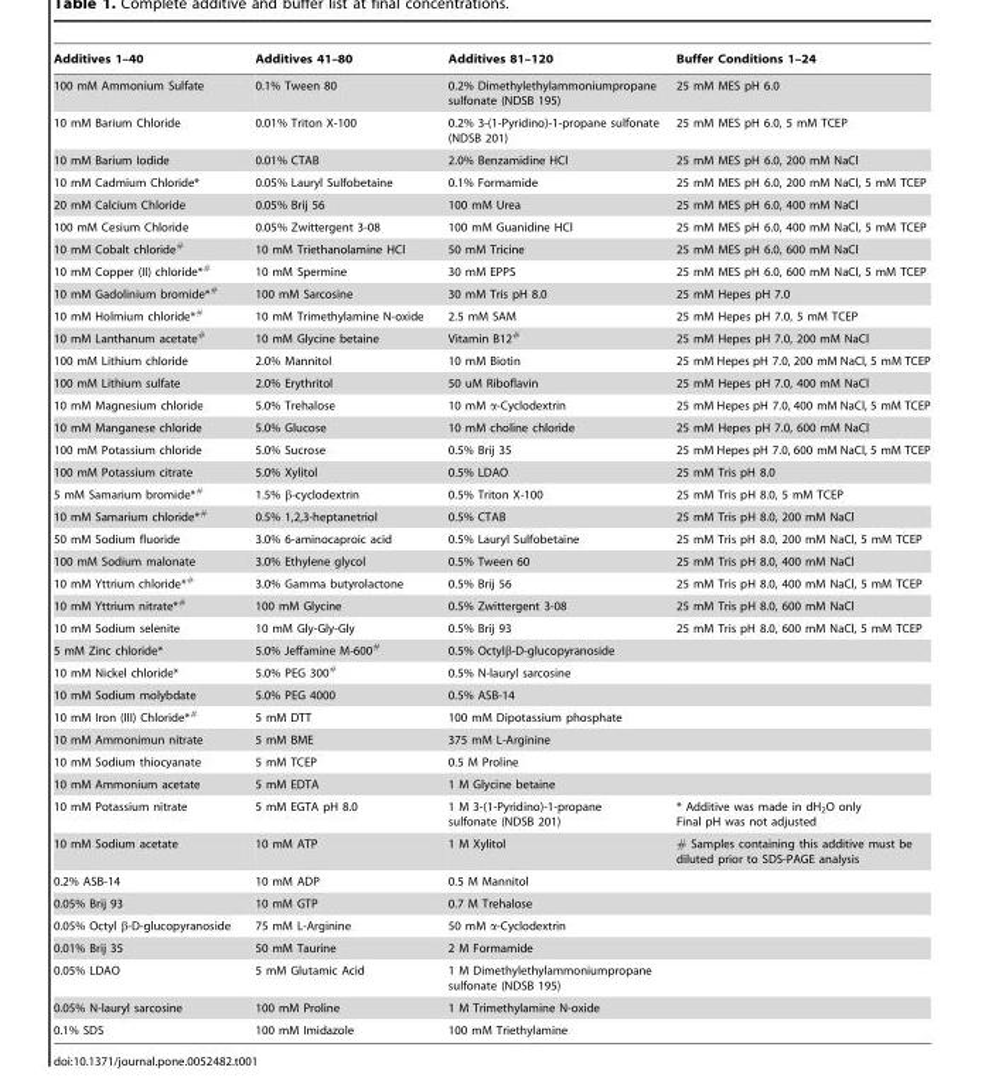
<table><thead><tr><td>Additives 1–40</td><td>Additives 41–80</td><td>Additives 81–120</td><td>Buffer Conditions 1–24</td></tr></thead><tbody><tr><td>100 mM Ammonium Sulfate</td><td>0.1% Tween 80</td><td>0.2% Dimethylethylammoniumpropane sulfonate (NDSB 195)</td><td>25 mM MES pH 6.0</td></tr><tr><td>10 mM Barium Chloride</td><td>0.01% Triton X-100</td><td>0.2% 3-(1-Pyridino)-1-propane sulfonate (NDSB 201)</td><td>25 mM MES pH 6.0, 5 mM TCEP</td></tr><tr><td>10 mM Barium Iodide</td><td>0.01% CTAB</td><td>2.0% Benzamidine HCl</td><td>25 mM MES pH 6.0, 200 mM NaCl</td></tr><tr><td>10 mM Cadmium Chloride*</td><td>0.05% Lauryl Sulfobetaine</td><td>0.1% Formamide</td><td>25 mM MES pH 6.0, 200 mM NaCl, 5 mM TCEP</td></tr><tr><td>20 mM Calcium Chloride</td><td>0.05% Brij 56</td><td>100 mM Urea</td><td>25 mM MES pH 6.0, 400 mM NaCl</td></tr><tr><td>100 mM Cesium Chloride</td><td>0.05% Zwittergent 3-08</td><td>100 mM Guanidine HCl</td><td>25 mM MES pH 6.0, 400 mM NaCl, 5 mM TCEP</td></tr><tr><td>10 mM Cobalt chloride<sup>#</sup></td><td>10 mM Triethanolamine HCl</td><td>50 mM Tricine</td><td>25 mM MES pH 6.0, 600 mM NaCl</td></tr><tr><td>10 mM Copper (II) chloride*<sup>#</sup></td><td>10 mM Spermine</td><td>30 mM EPPS</td><td>25 mM MES pH 6.0, 600 mM NaCl, 5 mM TCEP</td></tr><tr><td>10 mM Gadolinium bromide*<sup>#</sup></td><td>100 mM Sarcosine</td><td>30 mM Tris pH 8.0</td><td>25 mM Hepes pH 7.0</td></tr><tr><td>10 mM Holmium chloride*<sup>#</sup></td><td>10 mM Trimethylamine N-oxide</td><td>2.5 mM SAM</td><td>25 mM Hepes pH 7.0, 5 mM TCEP</td></tr><tr><td>10 mM Lanthanum acetate<sup>#</sup></td><td>10 mM Glycine betaine</td><td>Vitamin B12<sup>#</sup></td><td>25 mM Hepes pH 7.0, 200 mM NaCl</td></tr><tr><td>100 mM Lithium chloride</td><td>2.0% Mannitol</td><td>10 mM Biotin</td><td>25 mM Hepes pH 7.0, 200 mM NaCl, 5 mM TCEP</td></tr><tr><td>100 mM Lithium sulfate</td><td>2.0% Erythritol</td><td>50 uM Riboflavin</td><td>25 mM Hepes pH 7.0, 400 mM NaCl</td></tr><tr><td>10 mM Magnesium chloride</td><td>5.0% Trehalose</td><td>10 mM α-Cyclodextrin</td><td>25 mM Hepes pH 7.0, 400 mM NaCl, 5 mM TCEP</td></tr><tr><td>10 mM Manganese chloride</td><td>5.0% Glucose</td><td>10 mM choline chloride</td><td>25 mM Hepes pH 7.0, 600 mM NaCl</td></tr><tr><td>100 mM Potassium chloride</td><td>5.0% Sucrose</td><td>0.5% Brij 35</td><td>25 mM Hepes pH 7.0, 600 mM NaCl, 5 mM TCEP</td></tr><tr><td>100 mM Potassium citrate</td><td>5.0% Xylitol</td><td>0.5% LDAO</td><td>25 mM Tris pH 8.0</td></tr><tr><td>5 mM Samarium bromide*<sup>#</sup></td><td>1.5% β-cyclodextrin</td><td>0.5% Triton X-100</td><td>25 mM Tris pH 8.0, 5 mM TCEP</td></tr><tr><td>10 mM Samarium chloride*<sup>#</sup></td><td>0.5% 1,2,3-heptanetriol</td><td>0.5% CTAB</td><td>25 mM Tris pH 8.0, 200 mM NaCl</td></tr><tr><td>50 mM Sodium fluoride</td><td>3.0% 6-aminocaproic acid</td><td>0.5% Lauryl Sulfobetaine</td><td>25 mM Tris pH 8.0, 200 mM NaCl, 5 mM TCEP</td></tr><tr><td>100 mM Sodium malonate</td><td>3.0% Ethylene glycol</td><td>0.5% Tween 60</td><td>25 mM Tris pH 8.0, 400 mM NaCl</td></tr><tr><td>10 mM Yttrium chloride*<sup>#</sup></td><td>3.0% Gamma butyrolactone</td><td>0.5% Brij 56</td><td>25 mM Tris pH 8.0, 400 mM NaCl, 5 mM TCEP</td></tr><tr><td>10 mM Yttrium nitrate*<sup>#</sup></td><td>100 mM Glycine</td><td>0.5% Zwittergent 3-08</td><td>25 mM Tris pH 8.0, 600 mM NaCl</td></tr><tr><td>10 mM Sodium selenite</td><td>10 mM Gly-Gly-Gly</td><td>0.5% Brij 93</td><td>25 mM Tris pH 8.0, 600 mM NaCl, 5 mM TCEP</td></tr><tr><td>5 mM Zinc chloride*</td><td>5.0% Jeffamine M-600<sup>#</sup></td><td>0.5% Octylβ-D-glucopyranoside</td><td></td></tr><tr><td>10 mM Nickel chloride*</td><td>5.0% PEG 300<sup>#</sup></td><td>0.5% N-lauryl sarcosine</td><td></td></tr><tr><td>10 mM Sodium molybdate</td><td>5.0% PEG 4000</td><td>0.5% ASB-14</td><td></td></tr><tr><td>10 mM Iron (III) Chloride*<sup>#</sup></td><td>5 mM DTT</td><td>100 mM Dipotassium phosphate</td><td></td></tr><tr><td>10 mM Ammonimun nitrate</td><td>5 mM BME</td><td>375 mM L-Arginine</td><td></td></tr><tr><td>10 mM Sodium thiocyanate</td><td>5 mM TCEP</td><td>0.5 M Proline</td><td></td></tr><tr><td>10 mM Ammonium acetate</td><td>5 mM EDTA</td><td>1 M Glycine betaine</td><td></td></tr><tr><td>10 mM Potassium nitrate</td><td>5 mM EGTA pH 8.0</td><td>1 M 3-(1-Pyridino)-1-propane sulfonate (NDSB 201)</td><td>* Additive was made in dH<sub>2</sub>O only Final pH was not adjusted</td></tr><tr><td>10 mM Sodium acetate</td><td>10 mM ATP</td><td>1 M Xylitol</td><td># Samples containing this additive must be diluted prior to SDS-PAGE analysis</td></tr><tr><td>0.2% ASB-14</td><td>10 mM ADP</td><td>0.5 M Mannitol</td><td></td></tr><tr><td>0.05% Brij 93</td><td>10 mM GTP</td><td>0.7 M Trehalose</td><td></td></tr><tr><td>0.05% Octyl β-D-glucopyranoside</td><td>75 mM L-Arginine</td><td>50 mM α-Cyclodextrin</td><td></td></tr><tr><td>0.01% Brij 35</td><td>50 mM Taurine</td><td>2 M Formamide</td><td></td></tr><tr><td>0.05% LDAO</td><td>5 mM Glutamic Acid</td><td>1 M Dimethylethylammoniumpropane sulfonate (NDSB 195)</td><td></td></tr><tr><td>0.05% N-lauryl sarcosine</td><td>100 mM Proline</td><td>1 M Trimethylamine N-oxide</td><td></td></tr><tr><td>0.1% SDS</td><td>100 mM Imidazole</td><td>100 mM Triethylamine</td><td></td></tr></tbody></table>